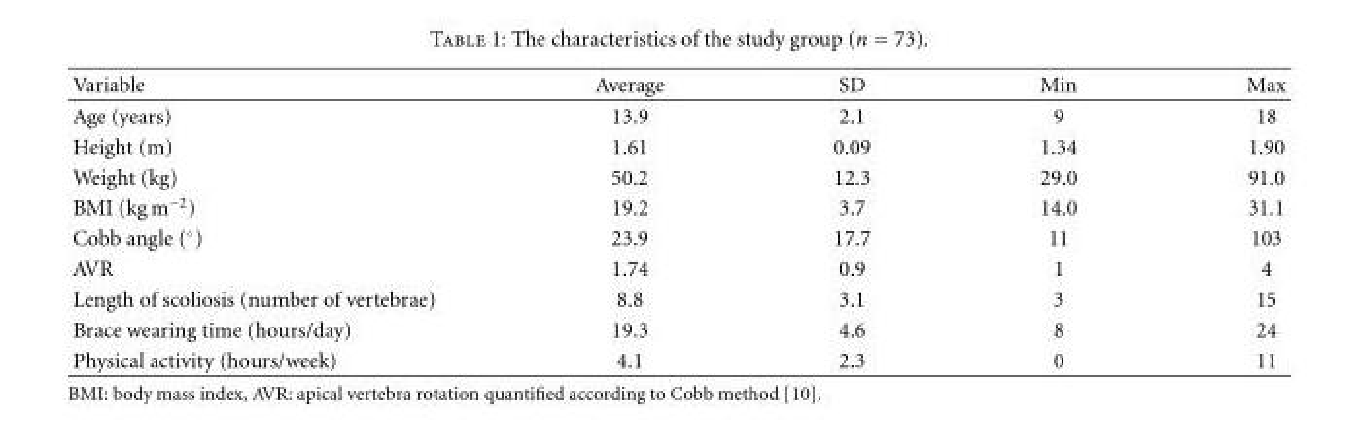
<table><thead><tr><td>Variable</td><td>Average</td><td>SD</td><td>Min</td><td>Max</td></tr></thead><tbody><tr><td>Age (years)</td><td>13.9</td><td>2.1</td><td>9</td><td>18</td></tr><tr><td>Height (m)</td><td>1.61</td><td>0.09</td><td>1.34</td><td>1.90</td></tr><tr><td>Weight (kg)</td><td>50.2</td><td>12.3</td><td>29.0</td><td>91.0</td></tr><tr><td>BMI (kg m<sup>−2</sup>)</td><td>19.2</td><td>3.7</td><td>14.0</td><td>31.1</td></tr><tr><td>Cobb angle (◦)</td><td>23.9</td><td>17.7</td><td>11</td><td>103</td></tr><tr><td>AVR</td><td>1.74</td><td>0.9</td><td>1</td><td>4</td></tr><tr><td>Length of scoliosis (number of vertebrae)</td><td>8.8</td><td>3.1</td><td>3</td><td>15</td></tr><tr><td>Brace wearing time (hours/day)</td><td>19.3</td><td>4.6</td><td>8</td><td>24</td></tr><tr><td>Physical activity (hours/week)</td><td>4.1</td><td>2.3</td><td>0</td><td>11</td></tr></tbody></table>